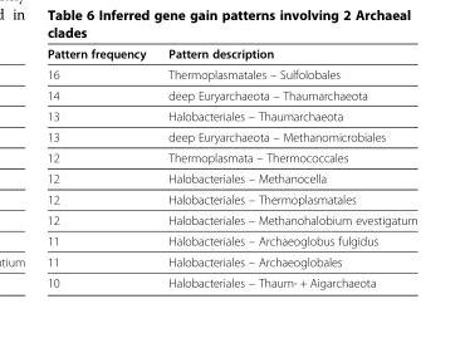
<table><thead><tr><td>Pattern frequency</td><td>Pattern description</td></tr></thead><tbody><tr><td>16</td><td>Thermoplasmatales – Sulfolobales</td></tr><tr><td>14</td><td>deep Euryarchaeota – Thaumarchaeota</td></tr><tr><td>13</td><td>Halobacteriales – Thaumarchaeota</td></tr><tr><td>13</td><td>deep Euryarchaeota – Methanomicrobiales</td></tr><tr><td>12</td><td>Thermoplasmata – Thermococcales</td></tr><tr><td>12</td><td>Halobacteriales – Methanocella</td></tr><tr><td>12</td><td>Halobacteriales – Thermoplasmatales</td></tr><tr><td>12</td><td>Halobacteriales – Methanohalobium evestigatum</td></tr><tr><td>11</td><td>Halobacteriales – Archaeoglobus fulgidus</td></tr><tr><td>11</td><td>Halobacteriales – Archaeoglobales</td></tr><tr><td>10</td><td>Halobacteriales – Thaum- + Aigarchaeota</td></tr></tbody></table>